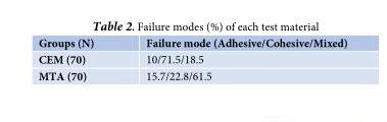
<table><thead><tr><td>Groups (N)</td><td>Failure mode (Adhesive/Cohesive/Mixed)</td></tr></thead><tbody><tr><td>CEM (70)</td><td>10/71.5/18.5</td></tr><tr><td>MTA (70)</td><td>15.7/22.8/61.5</td></tr></tbody></table>